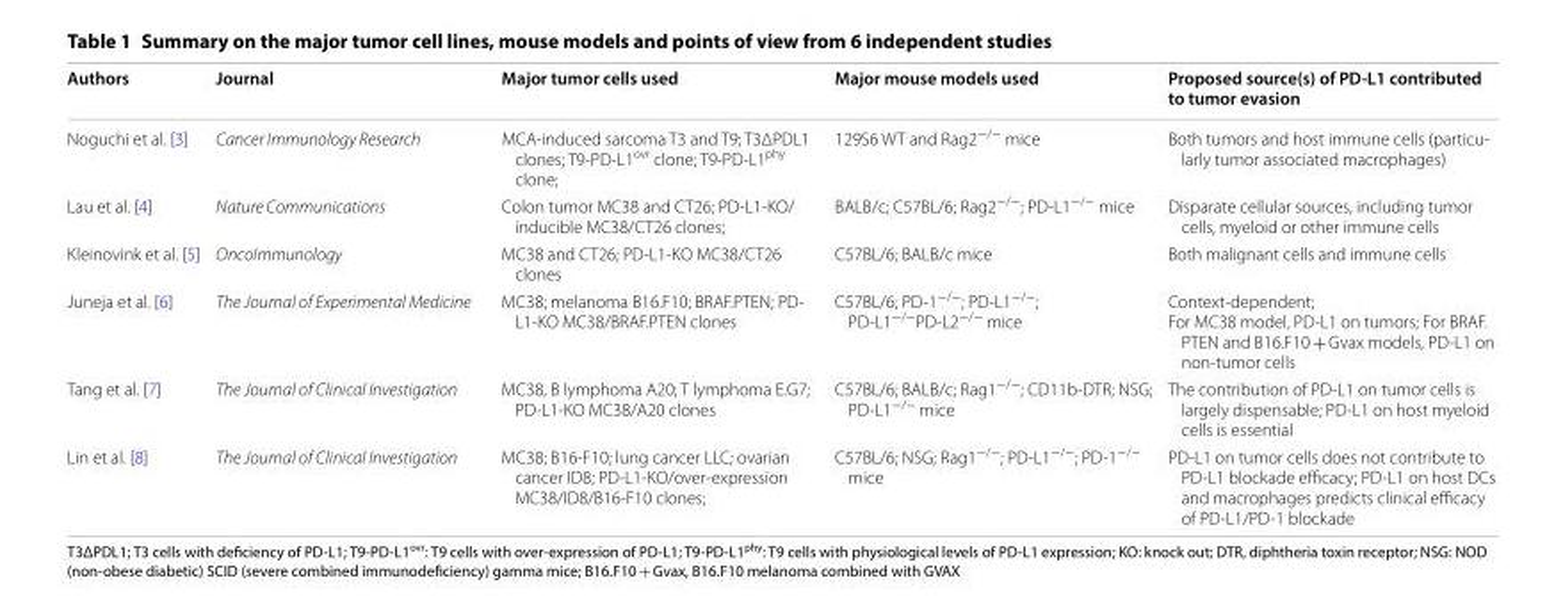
<table><thead><tr><td>Authors</td><td>Journal</td><td>Major tumor cells used</td><td>Major mouse models used</td><td>Proposed source(s) of PD-L1 contributed to tumor evasion</td></tr></thead><tbody><tr><td>Noguchi et al. [3]</td><td>Cancer Immunology Research</td><td>MCA-induced sarcoma T3 and T9; T3ΔPDL1 clones; T9-PD-L1<sup>ovr</sup> clone; T9-PD-L1<sup>phy</sup> clone;</td><td>129S6 WT and Rag2<sup>−/−</sup> mice</td><td>Both tumors and host immune cells (particu- larly tumor associated macrophages)</td></tr><tr><td>Lau et al. [4]</td><td>Nature Communications</td><td>Colon tumor MC38 and CT26; PD-L1-KO/ inducible MC38/CT26 clones;</td><td>BALB/c; C57BL/6; Rag2<sup>−/−</sup>; PD-L1<sup>−/−</sup> mice</td><td>Disparate cellular sources, including tumor cells, myeloid or other immune cells</td></tr><tr><td>Kleinovink et al. [5]</td><td>OncoImmunology</td><td>MC38 and CT26; PD-L1-KO MC38/CT26 clones</td><td>C57BL/6; BALB/c mice</td><td>Both malignant cells and immune cells</td></tr><tr><td>Juneja et al. [6]</td><td>The Journal of Experimental Medicine</td><td>MC38; melanoma B16.F10; BRAF.PTEN; PD- L1-KO MC38/BRAF.PTEN clones</td><td>C57BL/6; PD-1<sup>−/−</sup>; PD-L1<sup>−/−</sup>; PD-L1<sup>−/−</sup>PD-L2<sup>−/−</sup> mice</td><td>Context-dependent; For MC38 model, PD-L1 on tumors; For BRAF. PTEN and B16.F10 + Gvax models, PD-L1 on non-tumor cells</td></tr><tr><td>Tang et al. [7]</td><td>The Journal of Clinical Investigation</td><td>MC38, B lymphoma A20; T lymphoma E.G7; PD-L1-KO MC38/A20 clones</td><td>C57BL/6; BALB/c; Rag1<sup>−/−</sup>; CD11b-DTR; NSG; PD-L1<sup>−/−</sup> mice</td><td>The contribution of PD-L1 on tumor cells is largely dispensable; PD-L1 on host myeloid cells is essential</td></tr><tr><td>Lin et al. [8]</td><td>The Journal of Clinical Investigation</td><td>MC38; B16-F10; lung cancer LLC; ovarian cancer ID8; PD-L1-KO/over-expression MC38/ID8/B16-F10 clones;</td><td>C57BL/6; NSG; Rag1<sup>−/−</sup>; PD-L1<sup>−/−</sup>; PD-1<sup>−/−</sup> mice</td><td>PD-L1 on tumor cells does not contribute to PD-L1 blockade efficacy; PD-L1 on host DCs and macrophages predicts clinical efficacy of PD-L1/PD-1 blockade</td></tr></tbody></table>